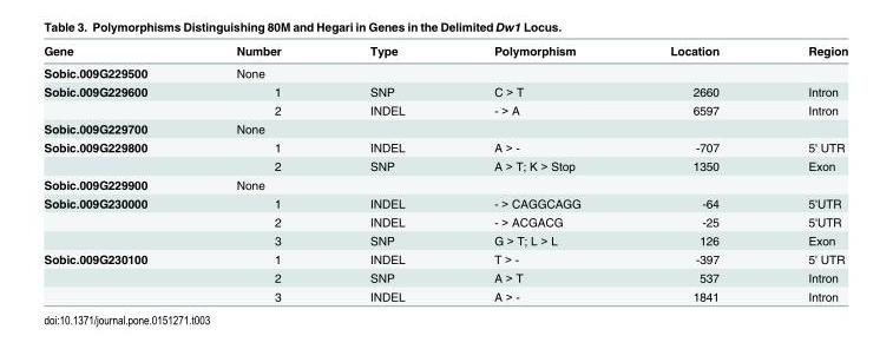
<table><thead><tr><td>Gene</td><td>Number</td><td>Type</td><td>Polymorphism</td><td>Location</td><td>Region</td></tr></thead><tbody><tr><td>Sobic.009G229500</td><td>None</td><td></td><td></td><td></td><td></td></tr><tr><td rowspan="2">Sobic.009G229600</td><td>1</td><td>SNP</td><td>C &gt; T</td><td>2660</td><td>Intron</td></tr><tr><td>2</td><td>INDEL</td><td>- &gt; A</td><td>6597</td><td>Intron</td></tr><tr><td>Sobic.009G229700</td><td>None</td><td></td><td></td><td></td><td></td></tr><tr><td rowspan="2">Sobic.009G229800</td><td>1</td><td>INDEL</td><td>A &gt; -</td><td>-707</td><td>5&#x27; UTR</td></tr><tr><td>2</td><td>SNP</td><td>A &gt; T; K &gt; Stop</td><td>1350</td><td>Exon</td></tr><tr><td>Sobic.009G229900</td><td>None</td><td></td><td></td><td></td><td></td></tr><tr><td rowspan="3">Sobic.009G230000</td><td>1</td><td>INDEL</td><td>- &gt; CAGGCAGG</td><td>-64</td><td>5&#x27;UTR</td></tr><tr><td>2</td><td>INDEL</td><td>- &gt; ACGACG</td><td>-25</td><td>5&#x27;UTR</td></tr><tr><td>3</td><td>SNP</td><td>G &gt; T; L &gt; L</td><td>126</td><td>Exon</td></tr><tr><td rowspan="3">Sobic.009G230100</td><td>1</td><td>INDEL</td><td>T &gt; -</td><td>-397</td><td>5&#x27; UTR</td></tr><tr><td>2</td><td>SNP</td><td>A &gt; T</td><td>537</td><td>Intron</td></tr><tr><td>3</td><td>INDEL</td><td>A &gt; -</td><td>1841</td><td>Intron</td></tr></tbody></table>